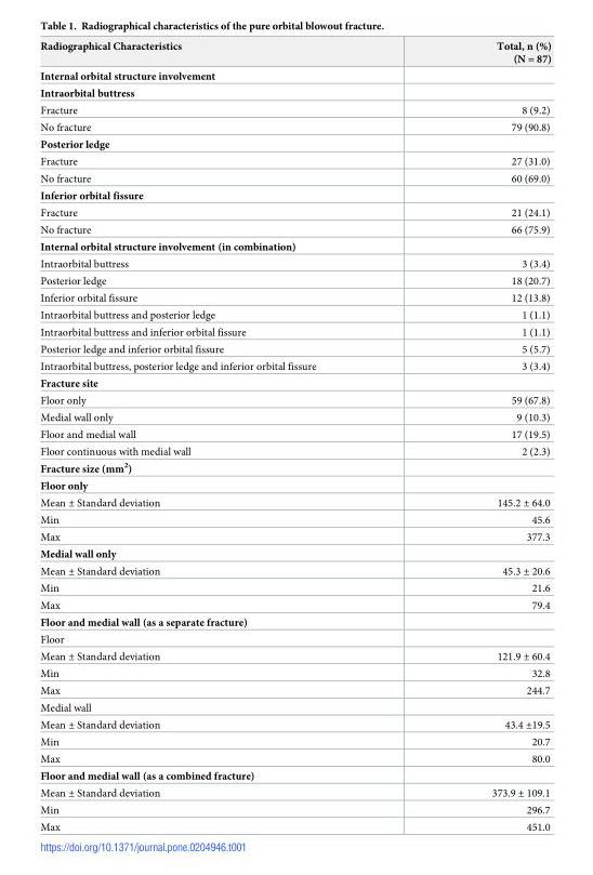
<table><thead><tr><td>Radiographical Characteristics</td><td>Total, n (%) (N = 87)</td></tr></thead><tbody><tr><td colspan="2">Internal orbital structure involvement</td></tr><tr><td colspan="2">Intraorbital buttress</td></tr><tr><td>Fracture</td><td>8 (9.2)</td></tr><tr><td>No fracture</td><td>79 (90.8)</td></tr><tr><td colspan="2">Posterior ledge</td></tr><tr><td>Fracture</td><td>27 (31.0)</td></tr><tr><td>No fracture</td><td>60 (69.0)</td></tr><tr><td colspan="2">Inferior orbital fissure</td></tr><tr><td>Fracture</td><td>21 (24.1)</td></tr><tr><td>No fracture</td><td>66 (75.9)</td></tr><tr><td colspan="2">Internal orbital structure involvement (in combination)</td></tr><tr><td>Intraorbital buttress</td><td>3 (3.4)</td></tr><tr><td>Posterior ledge</td><td>18 (20.7)</td></tr><tr><td>Inferior orbital fissure</td><td>12 (13.8)</td></tr><tr><td>Intraorbital buttress and posterior ledge</td><td>1 (1.1)</td></tr><tr><td>Intraorbital buttress and inferior orbital fissure</td><td>1 (1.1)</td></tr><tr><td>Posterior ledge and inferior orbital fissure</td><td>5 (5.7)</td></tr><tr><td>Intraorbital buttress, posterior ledge and inferior orbital fissure</td><td>3 (3.4)</td></tr><tr><td colspan="2">Fracture site</td></tr><tr><td>Floor only</td><td>59 (67.8)</td></tr><tr><td>Medial wall only</td><td>9 (10.3)</td></tr><tr><td>Floor and medial wall</td><td>17 (19.5)</td></tr><tr><td>Floor continuous with medial wall</td><td>2 (2.3)</td></tr><tr><td colspan="2">Fracture size (mm<sup>2</sup>)</td></tr><tr><td colspan="2">Floor only</td></tr><tr><td>Mean ± Standard deviation</td><td>145.2 ± 64.0</td></tr><tr><td>Min</td><td>45.6</td></tr><tr><td>Max</td><td>377.3</td></tr><tr><td colspan="2">Medial wall only</td></tr><tr><td>Mean ± Standard deviation</td><td>45.3 ± 20.6</td></tr><tr><td>Min</td><td>21.6</td></tr><tr><td>Max</td><td>79.4</td></tr><tr><td colspan="2">Floor and medial wall (as a separate fracture)</td></tr><tr><td colspan="2">Floor</td></tr><tr><td>Mean ± Standard deviation</td><td>121.9 ± 60.4</td></tr><tr><td>Min</td><td>32.8</td></tr><tr><td>Max</td><td>244.7</td></tr><tr><td colspan="2">Medial wall</td></tr><tr><td>Mean ± Standard deviation</td><td>43.4 ±19.5</td></tr><tr><td>Min</td><td>20.7</td></tr><tr><td>Max</td><td>80.0</td></tr><tr><td colspan="2">Floor and medial wall (as a combined fracture)</td></tr><tr><td>Mean ± Standard deviation</td><td>373.9 ± 109.1</td></tr><tr><td>Min</td><td>296.7</td></tr><tr><td>Max</td><td>451.0</td></tr></tbody></table>